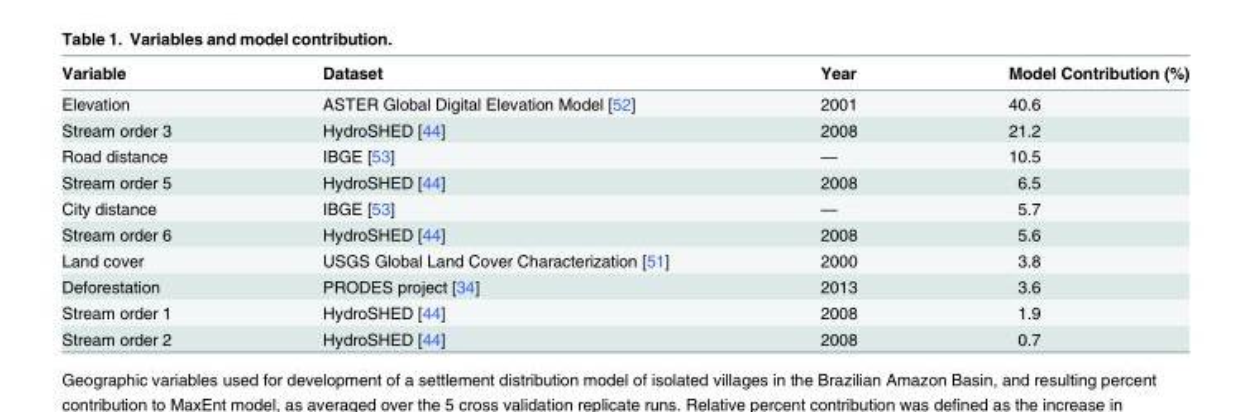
<table><thead><tr><td>Variable</td><td>Dataset</td><td>Year</td><td>Model Contribution (%)</td></tr></thead><tbody><tr><td>Elevation</td><td>ASTER Global Digital Elevation Model [52]</td><td>2001</td><td>40.6</td></tr><tr><td>Stream order 3</td><td>HydroSHED [44]</td><td>2008</td><td>21.2</td></tr><tr><td>Road distance</td><td>IBGE [53]</td><td>—</td><td>10.5</td></tr><tr><td>Stream order 5</td><td>HydroSHED [44]</td><td>2008</td><td>6.5</td></tr><tr><td>City distance</td><td>IBGE [53]</td><td>—</td><td>5.7</td></tr><tr><td>Stream order 6</td><td>HydroSHED [44]</td><td>2008</td><td>5.6</td></tr><tr><td>Land cover</td><td>USGS Global Land Cover Characterization [51]</td><td>2000</td><td>3.8</td></tr><tr><td>Deforestation</td><td>PRODES project [34]</td><td>2013</td><td>3.6</td></tr><tr><td>Stream order 1</td><td>HydroSHED [44]</td><td>2008</td><td>1.9</td></tr><tr><td>Stream order 2</td><td>HydroSHED [44]</td><td>2008</td><td>0.7</td></tr></tbody></table>